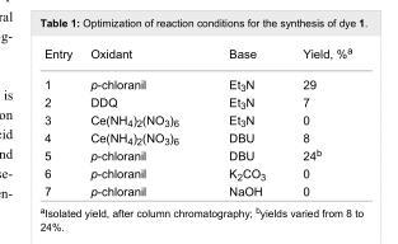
<table><tbody><tr><td>Entry</td><td>Oxidant</td><td>Base</td><td>Yield, %<sup>a</sup></td></tr><tr><td>1</td><td>p-chloranil</td><td>Et<sub>3</sub>N</td><td>29</td></tr><tr><td>2</td><td>DDQ</td><td>Et<sub>3</sub>N</td><td>7</td></tr><tr><td>3</td><td>Ce(NH<sub>4</sub>)<sub>2</sub>(NO<sub>3</sub>)<sub>6</sub></td><td>Et<sub>3</sub>N</td><td>0</td></tr><tr><td>4</td><td>Ce(NH<sub>4</sub>)<sub>2</sub>(NO<sub>3</sub>)<sub>6</sub></td><td>DBU</td><td>8</td></tr><tr><td>5</td><td>p-chloranil</td><td>DBU</td><td>24<sup>b</sup></td></tr><tr><td>6</td><td>p-chloranil</td><td>K<sub>2</sub>CO<sub>3</sub></td><td>0</td></tr><tr><td>7</td><td>p-chloranil</td><td>NaOH</td><td>0</td></tr></tbody></table>